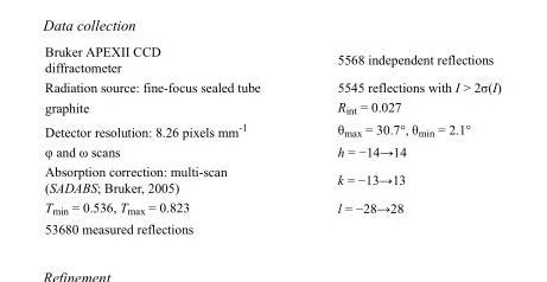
<table><tbody><tr><td>Bruker APEXII CCD diffractometer</td><td>5568 independent reflections</td></tr><tr><td>Radiation source: fine-focus sealed tube</td><td>5545 reflections with I &gt; 2σ(I)</td></tr><tr><td>graphite</td><td>R<sub>int</sub> = 0.027</td></tr><tr><td>Detector resolution: 8.26 pixels mm<sup>-1</sup></td><td>θ<sub>max</sub> = 30.7°, θ<sub>min</sub> = 2.1°</td></tr><tr><td>φ and ω scans</td><td>h = −14→14</td></tr><tr><td>Absorption correction: multi-scan (SADABS; Bruker, 2005)</td><td>k = −13→13</td></tr><tr><td>T<sub>min</sub> = 0.536, T<sub>max</sub> = 0.823</td><td>l = −28→28</td></tr><tr><td>53680 measured reflections</td><td></td></tr></tbody></table>